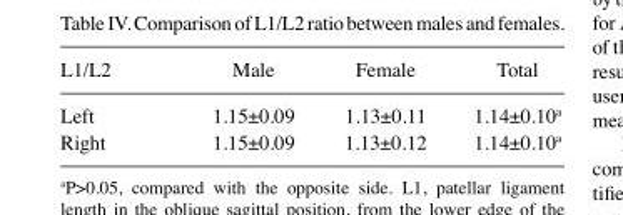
<table><thead><tr><td>L1/L2</td><td>Male</td><td>Female</td><td>Total</td></tr></thead><tbody><tr><td>Left</td><td>1.15±0.09</td><td>1.13±0.11</td><td>1.14±0.10<sup>a</sup></td></tr><tr><td>Right</td><td>1.15±0.09</td><td>1.13±0.12</td><td>1.14±0.10<sup>a</sup></td></tr></tbody></table>